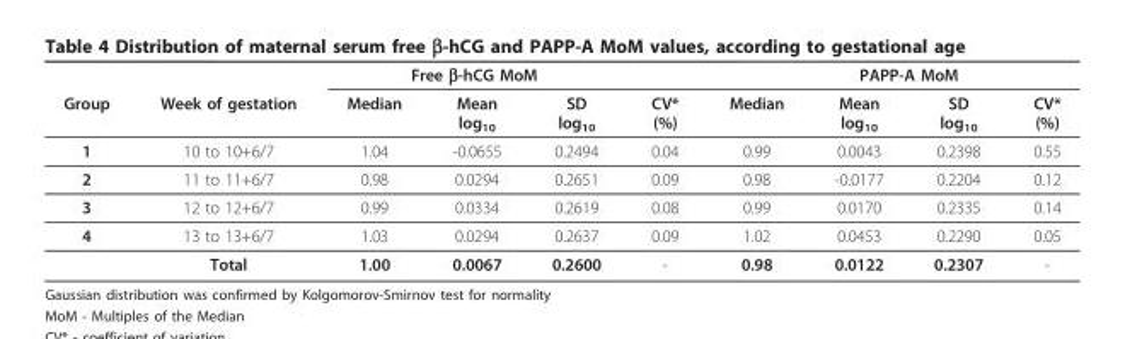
<table><thead><tr><td rowspan="2">Group</td><td rowspan="2">Week of gestation</td><td colspan="3">Free β-hCG MoM</td><td rowspan="2">CV* (%)</td><td rowspan="2">Median</td><td colspan="2">PAPP-A MoM</td><td rowspan="2">CV* (%)</td></tr><tr><td>Median</td><td>Mean log<sub>10</sub></td><td>SD log<sub>10</sub></td><td>Mean log10</td><td>SD log<sub>10</sub></td></tr></thead><tbody><tr><td>1</td><td>10 to 10+6/7</td><td>1.04</td><td>-0.0655</td><td>0.2494</td><td>0.04</td><td>0.99</td><td>0.0043</td><td>0.2398</td><td>0.55</td></tr><tr><td>2</td><td>11 to 11+6/7</td><td>0.98</td><td>0.0294</td><td>0.2651</td><td>0.09</td><td>0.98</td><td>-0.0177</td><td>0.2204</td><td>0.12</td></tr><tr><td>3</td><td>12 to 12+6/7</td><td>0.99</td><td>0.0334</td><td>0.2619</td><td>0.08</td><td>0.99</td><td>0.0170</td><td>0.2335</td><td>0.14</td></tr><tr><td rowspan="2">4</td><td>13 to 13+6/7</td><td>1.03</td><td>0.0294</td><td>0.2637</td><td>0.09</td><td>1.02</td><td>0.0453</td><td>0.2290</td><td>0.05</td></tr><tr><td>Total</td><td>1.00</td><td>0.0067</td><td>0.2600</td><td>-</td><td>0.98</td><td>0.0122</td><td>0.2307</td><td>-</td></tr></tbody></table>